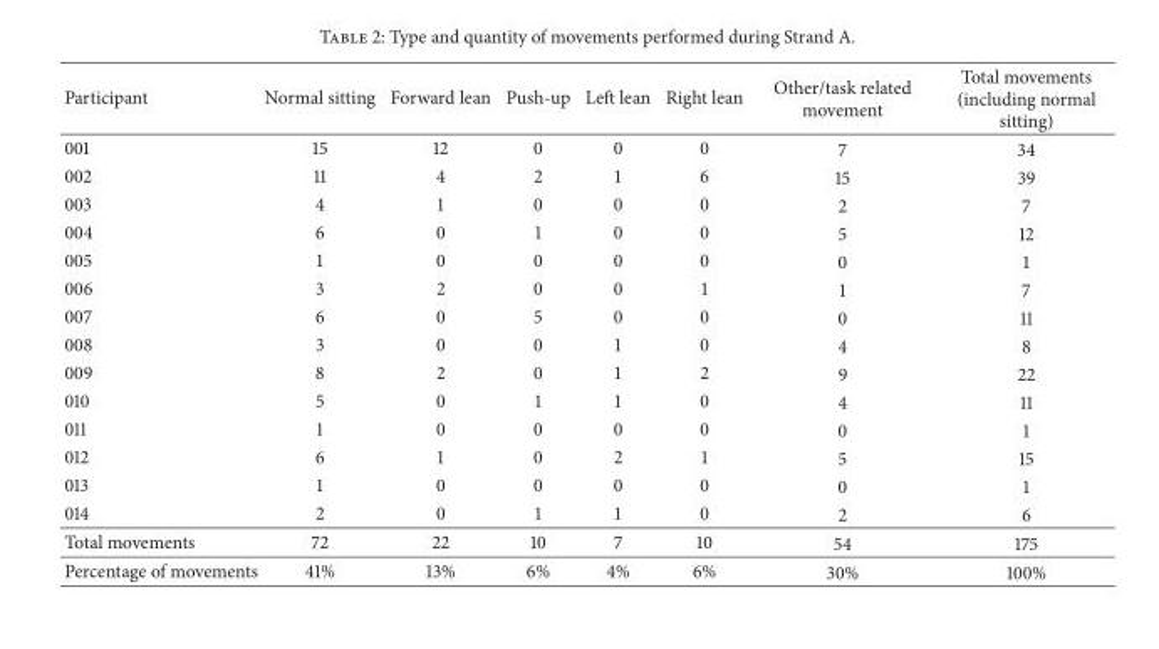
<table><thead><tr><td>Participant</td><td>Normal sitting</td><td>Forward lean</td><td>Push-up</td><td>Left lean</td><td>Right lean</td><td>Other/task related movement</td><td>Total movements (including normal sitting)</td></tr></thead><tbody><tr><td>001</td><td>15</td><td>12</td><td>0</td><td>0</td><td>0</td><td>7</td><td>34</td></tr><tr><td>002</td><td>11</td><td>4</td><td>2</td><td>1</td><td>6</td><td>15</td><td>39</td></tr><tr><td>003</td><td>4</td><td>1</td><td>0</td><td>0</td><td>0</td><td>2</td><td>7</td></tr><tr><td>004</td><td>6</td><td>0</td><td>1</td><td>0</td><td>0</td><td>5</td><td>12</td></tr><tr><td>005</td><td>1</td><td>0</td><td>0</td><td>0</td><td>0</td><td>0</td><td>1</td></tr><tr><td>006</td><td>3</td><td>2</td><td>0</td><td>0</td><td>1</td><td>1</td><td>7</td></tr><tr><td>007</td><td>6</td><td>0</td><td>5</td><td>0</td><td>0</td><td>0</td><td>11</td></tr><tr><td>008</td><td>3</td><td>0</td><td>0</td><td>1</td><td>0</td><td>4</td><td>8</td></tr><tr><td>009</td><td>8</td><td>2</td><td>0</td><td>1</td><td>2</td><td>9</td><td>22</td></tr><tr><td>010</td><td>5</td><td>0</td><td>1</td><td>1</td><td>0</td><td>4</td><td>11</td></tr><tr><td>011</td><td>1</td><td>0</td><td>0</td><td>0</td><td>0</td><td>0</td><td>1</td></tr><tr><td>012</td><td>6</td><td>1</td><td>0</td><td>2</td><td>1</td><td>5</td><td>15</td></tr><tr><td>013</td><td>1</td><td>0</td><td>0</td><td>0</td><td>0</td><td>0</td><td>1</td></tr><tr><td>014</td><td>2</td><td>0</td><td>1</td><td>1</td><td>0</td><td>2</td><td>6</td></tr><tr><td>Total movements</td><td>72</td><td>22</td><td>10</td><td>7</td><td>10</td><td>54</td><td>175</td></tr><tr><td>Percentage of movements</td><td>41%</td><td>13%</td><td>6%</td><td>4%</td><td>6%</td><td>30%</td><td>100%</td></tr></tbody></table>